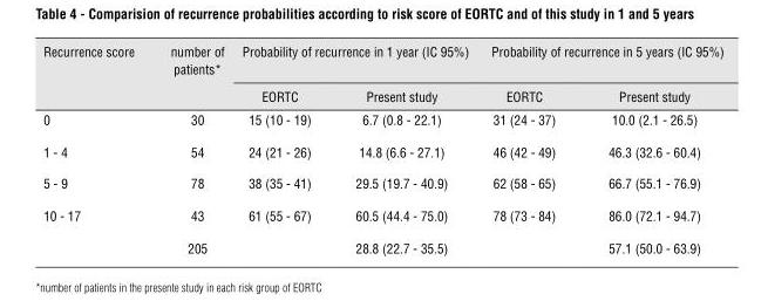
<table><thead><tr><td rowspan="2">Recurrence score</td><td rowspan="2">number of patients*</td><td colspan="2">Probability of recurrence in 1 year (IC 95%)</td><td colspan="2">Probability of recurrence in 5 years (IC 95%)</td></tr><tr><td>EORTC</td><td>Present study</td><td>EORTC</td><td>Present study</td></tr></thead><tbody><tr><td>0</td><td>30</td><td>15 (10 - 19)</td><td>6.7 (0.8 - 22.1)</td><td>31 (24 - 37)</td><td>10.0 (2.1 - 26.5)</td></tr><tr><td>1 - 4</td><td>54</td><td>24 (21 - 26)</td><td>14.8 (6.6 - 27.1)</td><td>46 (42 - 49)</td><td>46.3 (32.6 - 60.4)</td></tr><tr><td>5 - 9</td><td>78</td><td>38 (35 - 41)</td><td>29.5 (19.7 - 40.9)</td><td>62 (58 - 65)</td><td>66.7 (55.1 - 76.9)</td></tr><tr><td rowspan="2">10 - 17</td><td>43</td><td>61 (55 - 67)</td><td>60.5 (44.4 - 75.0)</td><td>78 (73 - 84)</td><td>86.0 (72.1 - 94.7)</td></tr><tr><td>205</td><td></td><td>28.8 (22.7 - 35.5)</td><td></td><td>57.1 (50.0 - 63.9)</td></tr></tbody></table>